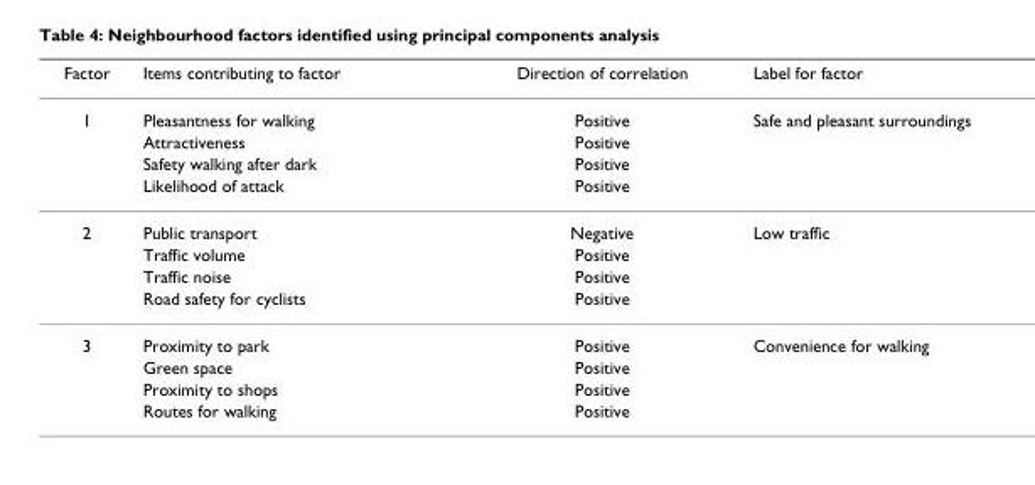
<table><thead><tr><td>Factor</td><td>Items contributing to factor</td><td>Direction of correlation</td><td>Label for factor</td></tr></thead><tbody><tr><td rowspan="4">1</td><td>Pleasantness for walking</td><td>Positive</td><td>Safe and pleasant surroundings</td></tr><tr><td>Attractiveness</td><td>Positive</td><td></td></tr><tr><td>Safety walking after dark</td><td>Positive</td><td></td></tr><tr><td>Likelihood of attack</td><td>Positive</td><td></td></tr><tr><td rowspan="4">2</td><td>Public transport</td><td>Negative</td><td>Low traffic</td></tr><tr><td>Traffic volume</td><td>Positive</td><td></td></tr><tr><td>Traffic noise</td><td>Positive</td><td></td></tr><tr><td>Road safety for cyclists</td><td>Positive</td><td></td></tr><tr><td rowspan="4">3</td><td>Proximity to park</td><td>Positive</td><td>Convenience for walking</td></tr><tr><td>Green space</td><td>Positive</td><td></td></tr><tr><td>Proximity to shops</td><td>Positive</td><td></td></tr><tr><td>Routes for walking</td><td>Positive</td><td></td></tr></tbody></table>